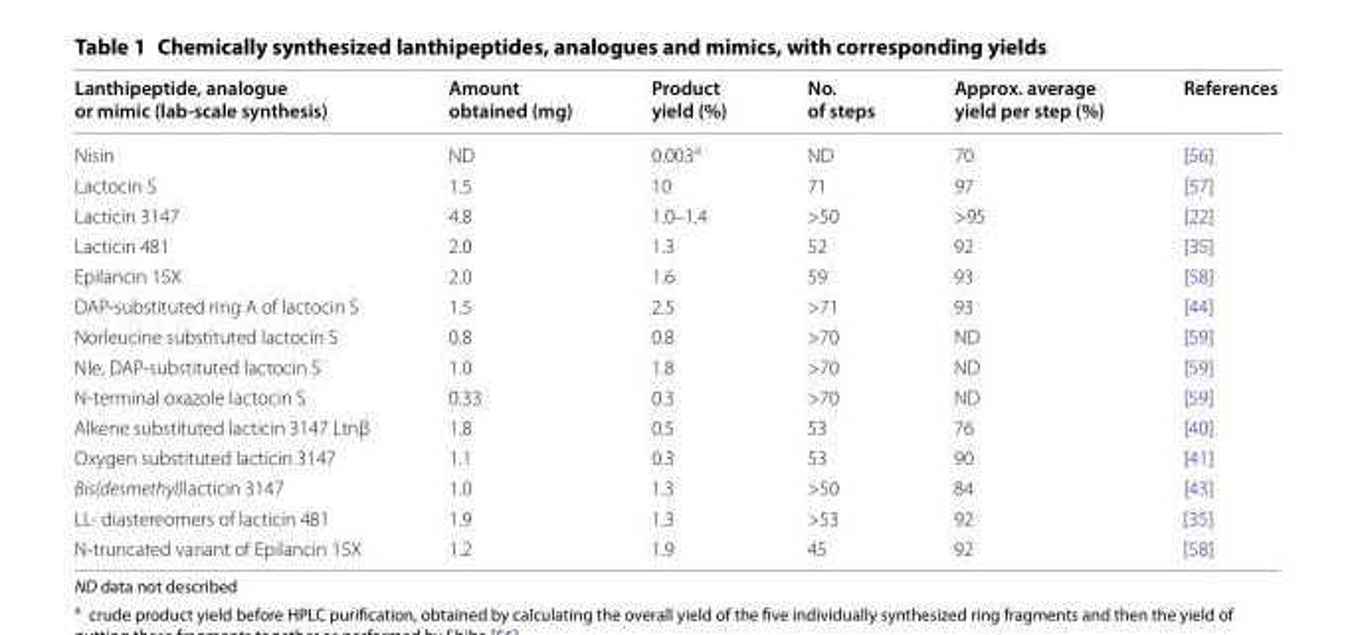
<table><thead><tr><td>Lanthipeptide, analogue or mimic (lab-scale synthesis)</td><td>Amount obtained (mg)</td><td>Product yield (%)</td><td>No. of steps</td><td>Approx. average yield per step (%)</td><td>References</td></tr></thead><tbody><tr><td>Nisin</td><td>ND</td><td>0.003<sup>a</sup></td><td>ND</td><td>70</td><td>[56]</td></tr><tr><td>Lactocin S</td><td>1.5</td><td>10</td><td>71</td><td>97</td><td>[57]</td></tr><tr><td>Lacticin 3147</td><td>4.8</td><td>1.0–1.4</td><td>&gt;50</td><td>&gt;95</td><td>[22]</td></tr><tr><td>Lacticin 481</td><td>2.0</td><td>1.3</td><td>52</td><td>92</td><td>[35]</td></tr><tr><td>Epilancin 15X</td><td>2.0</td><td>1.6</td><td>59</td><td>93</td><td>[58]</td></tr><tr><td>DAP-substituted ring A of lactocin S</td><td>1.5</td><td>2.5</td><td>&gt;71</td><td>93</td><td>[44]</td></tr><tr><td>Norleucine substituted lactocin S</td><td>0.8</td><td>0.8</td><td>&gt;70</td><td>ND</td><td>[59]</td></tr><tr><td>Nle, DAP-substituted lactocin S</td><td>1.0</td><td>1.8</td><td>&gt;70</td><td>ND</td><td>[59]</td></tr><tr><td>N-terminal oxazole lactocin S</td><td>0.33</td><td>0.3</td><td>&gt;70</td><td>ND</td><td>[59]</td></tr><tr><td>Alkene substituted lacticin 3147 Ltnβ</td><td>1.8</td><td>0.5</td><td>53</td><td>76</td><td>[40]</td></tr><tr><td>Oxygen substituted lacticin 3147</td><td>1.1</td><td>0.3</td><td>53</td><td>90</td><td>[41]</td></tr><tr><td>Bis(desmethyl)lacticin 3147</td><td>1.0</td><td>1.3</td><td>&gt;50</td><td>84</td><td>[43]</td></tr><tr><td>LL- diastereomers of lacticin 481</td><td>1.9</td><td>1.3</td><td>&gt;53</td><td>92</td><td>[35]</td></tr><tr><td>N-truncated variant of Epilancin 15X</td><td>1.2</td><td>1.9</td><td>45</td><td>92</td><td>[58]</td></tr></tbody></table>